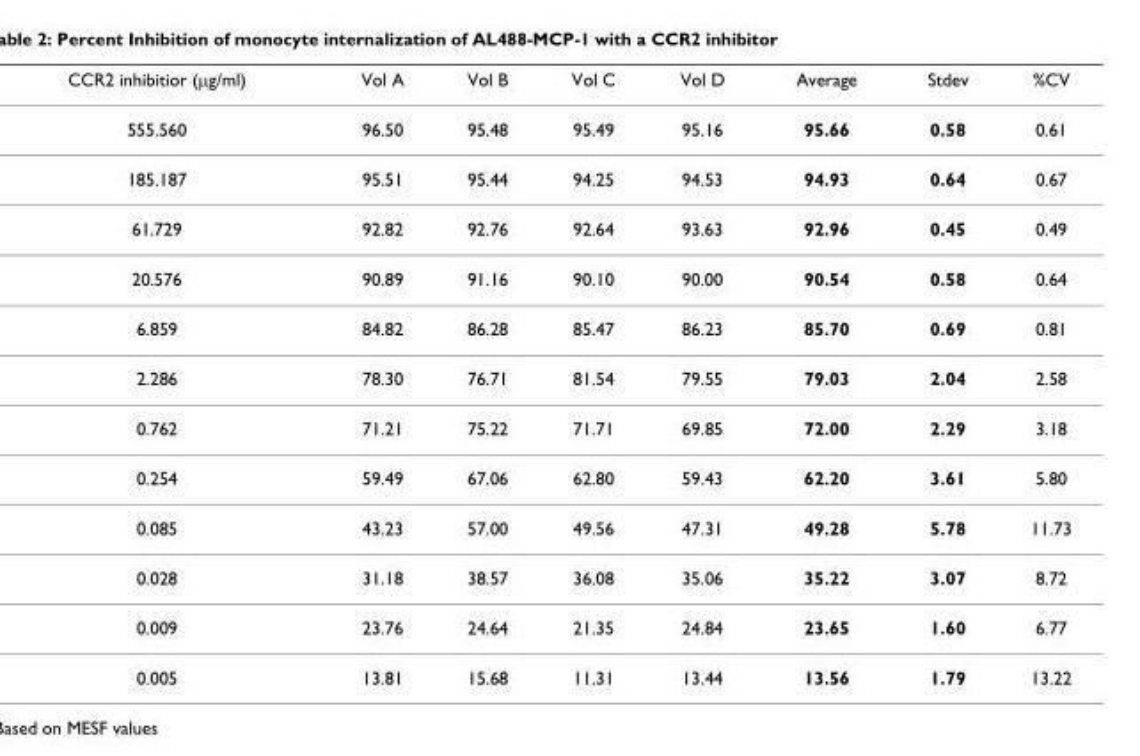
<table><thead><tr><td>CCR2 inhibitior (μg/ml)</td><td>Vol A</td><td>Vol B</td><td>Vol C</td><td>Vol D</td><td>Average</td><td>Stdev</td><td>%CV</td></tr></thead><tbody><tr><td>555.560</td><td>96.50</td><td>95.48</td><td>95.49</td><td>95.16</td><td>95.66</td><td>0.58</td><td>0.61</td></tr><tr><td>185.187</td><td>95.51</td><td>95.44</td><td>94.25</td><td>94.53</td><td>94.93</td><td>0.64</td><td>0.67</td></tr><tr><td>61.729</td><td>92.82</td><td>92.76</td><td>92.64</td><td>93.63</td><td>92.96</td><td>0.45</td><td>0.49</td></tr><tr><td>20.576</td><td>90.89</td><td>91.16</td><td>90.10</td><td>90.00</td><td>90.54</td><td>0.58</td><td>0.64</td></tr><tr><td>6.859</td><td>84.82</td><td>86.28</td><td>85.47</td><td>86.23</td><td>85.70</td><td>0.69</td><td>0.81</td></tr><tr><td>2.286</td><td>78.30</td><td>76.71</td><td>81.54</td><td>79.55</td><td>79.03</td><td>2.04</td><td>2.58</td></tr><tr><td>0.762</td><td>71.21</td><td>75.22</td><td>71.71</td><td>69.85</td><td>72.00</td><td>2.29</td><td>3.18</td></tr><tr><td>0.254</td><td>59.49</td><td>67.06</td><td>62.80</td><td>59.43</td><td>62.20</td><td>3.61</td><td>5.80</td></tr><tr><td>0.085</td><td>43.23</td><td>57.00</td><td>49.56</td><td>47.31</td><td>49.28</td><td>5.78</td><td>11.73</td></tr><tr><td>0.028</td><td>31.18</td><td>38.57</td><td>36.08</td><td>35.06</td><td>35.22</td><td>3.07</td><td>8.72</td></tr><tr><td>0.009</td><td>23.76</td><td>24.64</td><td>21.35</td><td>24.84</td><td>23.65</td><td>1.60</td><td>6.77</td></tr><tr><td>0.005</td><td>13.81</td><td>15.68</td><td>11.31</td><td>13.44</td><td>13.56</td><td>1.79</td><td>13.22</td></tr></tbody></table>